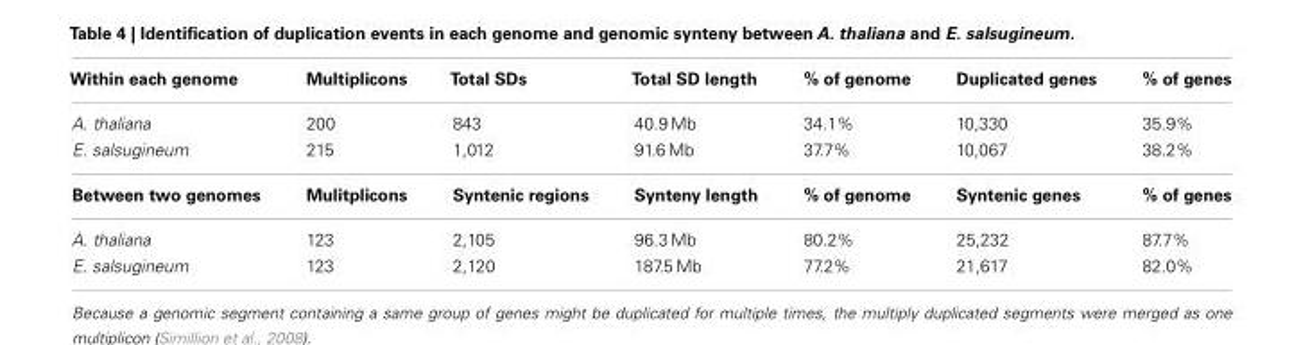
<table><thead><tr><td>Within each genome</td><td>Multiplicons</td><td>Total SDs</td><td>Total SD length</td><td>% of genome</td><td>Duplicated genes</td><td>% of genes</td></tr></thead><tbody><tr><td>A. thaliana</td><td>200</td><td>843</td><td>40.9 Mb</td><td>34.1%</td><td>10,330</td><td>35.9%</td></tr><tr><td>E. salsugineum</td><td>215</td><td>1,012</td><td>91.6 Mb</td><td>37.7%</td><td>10,067</td><td>38.2%</td></tr><tr><td>Between two genomes</td><td>Mulitplicons</td><td>Syntenic regions</td><td>Synteny length</td><td>% of genome</td><td>Syntenic genes</td><td>% of genes</td></tr><tr><td>A. thaliana</td><td>123</td><td>2,105</td><td>96.3 Mb</td><td>80.2%</td><td>25,232</td><td>87.7%</td></tr><tr><td>E. salsugineum</td><td>123</td><td>2,120</td><td>187.5 Mb</td><td>77.2%</td><td>21,617</td><td>82.0%</td></tr></tbody></table>